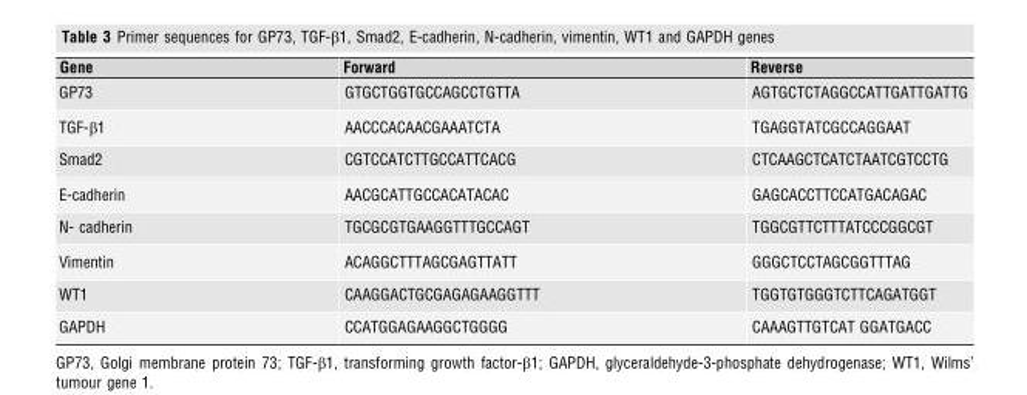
<table><thead><tr><td>Gene</td><td>Forward</td><td>Reverse</td></tr></thead><tbody><tr><td>GP73</td><td>GTGCTGGTGCCAGCCTGTTA</td><td>AGTGCTCTAGGCCATTGATTGATTG</td></tr><tr><td>TGF-β1</td><td>AACCCACAACGAAATCTA</td><td>TGAGGTATCGCCAGGAAT</td></tr><tr><td>Smad2</td><td>CGTCCATCTTGCCATTCACG</td><td>CTCAAGCTCATCTAATCGTCCTG</td></tr><tr><td>E-cadherin</td><td>AACGCATTGCCACATACAC</td><td>GAGCACCTTCCATGACAGAC</td></tr><tr><td>N- cadherin</td><td>TGCGCGTGAAGGTTTGCCAGT</td><td>TGGCGTTCTTTATCCCGGCGT</td></tr><tr><td>Vimentin</td><td>ACAGGCTTTAGCGAGTTATT</td><td>GGGCTCCTAGCGGTTTAG</td></tr><tr><td>WT1</td><td>CAAGGACTGCGAGAGAAGGTTT</td><td>TGGTGTGGGTCTTCAGATGGT</td></tr><tr><td>GAPDH</td><td>CCATGGAGAAGGCTGGGG</td><td>CAAAGTTGTCAT GGATGACC</td></tr></tbody></table>